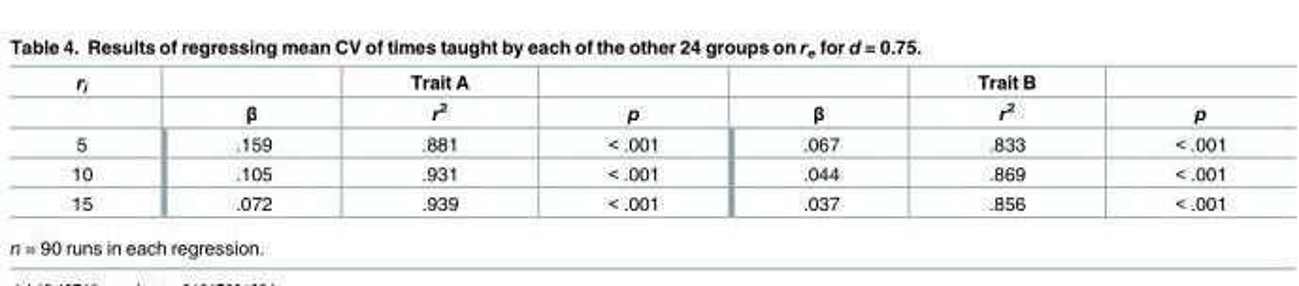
<table><thead><tr><td rowspan="2">r<sub>i</sub></td><td rowspan="2">β</td><td rowspan="2">Trait A r<sup>2</sup></td><td rowspan="2">p</td><td rowspan="2">β</td><td rowspan="2">Trait B r<sup>2</sup></td><td rowspan="2">p</td></tr><tr></tr></thead><tbody><tr><td>5</td><td>.159</td><td>.881</td><td>&lt; .001</td><td>.067</td><td>.833</td><td>&lt; .001</td></tr><tr><td>10</td><td>.105</td><td>.931</td><td>&lt; .001</td><td>.044</td><td>.869</td><td>&lt; .001</td></tr><tr><td>15</td><td>.072</td><td>.939</td><td>&lt; .001</td><td>.037</td><td>.856</td><td>&lt; .001</td></tr></tbody></table>